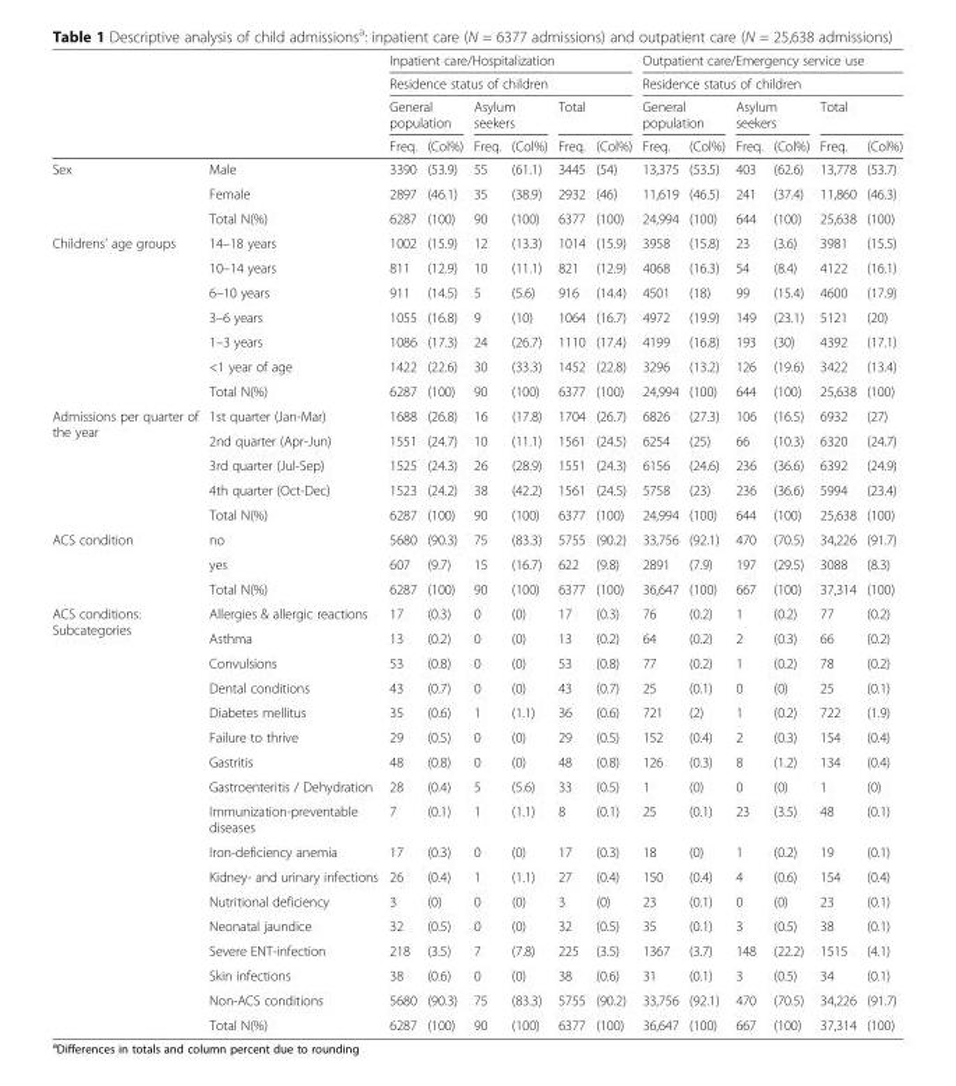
<table><thead><tr><td rowspan="4"></td><td rowspan="4"></td><td rowspan="2" colspan="6">Inpatient care/Hospitalization Residence status of children</td><td rowspan="2" colspan="6">Outpatient care/Emergency service use Residence status of children</td></tr><tr></tr><tr><td colspan="2">General population</td><td colspan="2">Asylum seekers</td><td colspan="2">Total</td><td colspan="2">General population</td><td colspan="2">Asylum seekers</td><td colspan="2">Total</td></tr><tr><td>Freq.</td><td>(Col%)</td><td>Freq.</td><td>(Col%)</td><td>Freq.</td><td>(Col%)</td><td>Freq.</td><td>(Col%)</td><td>Freq.</td><td>(Col%)</td><td>Freq.</td><td>(Col%)</td></tr></thead><tbody><tr><td rowspan="3">Sex</td><td>Male</td><td>3390</td><td>(53.9)</td><td>55</td><td>(61.1)</td><td>3445</td><td>(54)</td><td>13,375</td><td>(53.5)</td><td>403</td><td>(62.6)</td><td>13,778</td><td>(53.7)</td></tr><tr><td>Female</td><td>2897</td><td>(46.1)</td><td>35</td><td>(38.9)</td><td>2932</td><td>(46)</td><td>11,619</td><td>(46.5)</td><td>241</td><td>(37.4)</td><td>11,860</td><td>(46.3)</td></tr><tr><td>Total N(%)</td><td>6287</td><td>(100)</td><td>90</td><td>(100)</td><td>6377</td><td>(100)</td><td>24,994</td><td>(100)</td><td>644</td><td>(100)</td><td>25,638</td><td>(100)</td></tr><tr><td rowspan="7">Childrens’ age groups</td><td>14–18 years</td><td>1002</td><td>(15.9)</td><td>12</td><td>(13.3)</td><td>1014</td><td>(15.9)</td><td>3958</td><td>(15.8)</td><td>23</td><td>(3.6)</td><td>3981</td><td>(15.5)</td></tr><tr><td>10–14 years</td><td>811</td><td>(12.9)</td><td>10</td><td>(11.1)</td><td>821</td><td>(12.9)</td><td>4068</td><td>(16.3)</td><td>54</td><td>(8.4)</td><td>4122</td><td>(16.1)</td></tr><tr><td>6–10 years</td><td>911</td><td>(14.5)</td><td>5</td><td>(5.6)</td><td>916</td><td>(14.4)</td><td>4501</td><td>(18)</td><td>99</td><td>(15.4)</td><td>4600</td><td>(17.9)</td></tr><tr><td>3–6 years</td><td>1055</td><td>(16.8)</td><td>9</td><td>(10)</td><td>1064</td><td>(16.7)</td><td>4972</td><td>(19.9)</td><td>149</td><td>(23.1)</td><td>5121</td><td>(20)</td></tr><tr><td>1–3 years</td><td>1086</td><td>(17.3)</td><td>24</td><td>(26.7)</td><td>1110</td><td>(17.4)</td><td>4199</td><td>(16.8)</td><td>193</td><td>(30)</td><td>4392</td><td>(17.1)</td></tr><tr><td>&lt;1 year of age</td><td>1422</td><td>(22.6)</td><td>30</td><td>(33.3)</td><td>1452</td><td>(22.8)</td><td>3296</td><td>(13.2)</td><td>126</td><td>(19.6)</td><td>3422</td><td>(13.4)</td></tr><tr><td>Total N(%)</td><td>6287</td><td>(100)</td><td>90</td><td>(100)</td><td>6377</td><td>(100)</td><td>24,994</td><td>(100)</td><td>644</td><td>(100)</td><td>25,638</td><td>(100)</td></tr><tr><td rowspan="5">Admissions per quarter of the year</td><td>1st quarter (Jan-Mar)</td><td>1688</td><td>(26.8)</td><td>16</td><td>(17.8)</td><td>1704</td><td>(26.7)</td><td>6826</td><td>(27.3)</td><td>106</td><td>(16.5)</td><td>6932</td><td>(27)</td></tr><tr><td>2nd quarter (Apr-Jun)</td><td>1551</td><td>(24.7)</td><td>10</td><td>(11.1)</td><td>1561</td><td>(24.5)</td><td>6254</td><td>(25)</td><td>66</td><td>(10.3)</td><td>6320</td><td>(24.7)</td></tr><tr><td>3rd quarter (Jul-Sep)</td><td>1525</td><td>(24.3)</td><td>26</td><td>(28.9)</td><td>1551</td><td>(24.3)</td><td>6156</td><td>(24.6)</td><td>236</td><td>(36.6)</td><td>6392</td><td>(24.9)</td></tr><tr><td>4th quarter (Oct-Dec)</td><td>1523</td><td>(24.2)</td><td>38</td><td>(42.2)</td><td>1561</td><td>(24.5)</td><td>5758</td><td>(23)</td><td>236</td><td>(36.6)</td><td>5994</td><td>(23.4)</td></tr><tr><td>Total N(%)</td><td>6287</td><td>(100)</td><td>90</td><td>(100)</td><td>6377</td><td>(100)</td><td>24,994</td><td>(100)</td><td>644</td><td>(100)</td><td>25,638</td><td>(100)</td></tr><tr><td rowspan="3">ACS condition</td><td>no</td><td>5680</td><td>(90.3)</td><td>75</td><td>(83.3)</td><td>5755</td><td>(90.2)</td><td>33,756</td><td>(92.1)</td><td>470</td><td>(70.5)</td><td>34,226</td><td>(91.7)</td></tr><tr><td>yes</td><td>607</td><td>(9.7)</td><td>15</td><td>(16.7)</td><td>622</td><td>(9.8)</td><td>2891</td><td>(7.9)</td><td>197</td><td>(29.5)</td><td>3088</td><td>(8.3)</td></tr><tr><td>Total N(%)</td><td>6287</td><td>(100)</td><td>90</td><td>(100)</td><td>6377</td><td>(100)</td><td>36,647</td><td>(100)</td><td>667</td><td>(100)</td><td>37,314</td><td>(100)</td></tr><tr><td rowspan="17">ACS conditions: Subcategories</td><td>Allergies &amp; allergic reactions</td><td>17</td><td>(0.3)</td><td>0</td><td>(0)</td><td>17</td><td>(0.3)</td><td>76</td><td>(0.2)</td><td>1</td><td>(0.2)</td><td>77</td><td>(0.2)</td></tr><tr><td>Asthma</td><td>13</td><td>(0.2)</td><td>0</td><td>(0)</td><td>13</td><td>(0.2)</td><td>64</td><td>(0.2)</td><td>2</td><td>(0.3)</td><td>66</td><td>(0.2)</td></tr><tr><td>Convulsions</td><td>53</td><td>(0.8)</td><td>0</td><td>(0)</td><td>53</td><td>(0.8)</td><td>77</td><td>(0.2)</td><td>1</td><td>(0.2)</td><td>78</td><td>(0.2)</td></tr><tr><td>Dental conditions</td><td>43</td><td>(0.7)</td><td>0</td><td>(0)</td><td>43</td><td>(0.7)</td><td>25</td><td>(0.1)</td><td>0</td><td>(0)</td><td>25</td><td>(0.1)</td></tr><tr><td>Diabetes mellitus</td><td>35</td><td>(0.6)</td><td>1</td><td>(1.1)</td><td>36</td><td>(0.6)</td><td>721</td><td>(2)</td><td>1</td><td>(0.2)</td><td>722</td><td>(1.9)</td></tr><tr><td>Failure to thrive</td><td>29</td><td>(0.5)</td><td>0</td><td>(0)</td><td>29</td><td>(0.5)</td><td>152</td><td>(0.4)</td><td>2</td><td>(0.3)</td><td>154</td><td>(0.4)</td></tr><tr><td>Gastritis</td><td>48</td><td>(0.8)</td><td>0</td><td>(0)</td><td>48</td><td>(0.8)</td><td>126</td><td>(0.3)</td><td>8</td><td>(1.2)</td><td>134</td><td>(0.4)</td></tr><tr><td>Gastroenteritis / Dehydration</td><td>28</td><td>(0.4)</td><td>5</td><td>(5.6)</td><td>33</td><td>(0.5)</td><td>1</td><td>(0)</td><td>0</td><td>(0)</td><td>1</td><td>(0)</td></tr><tr><td>Immunization-preventable diseases</td><td>7</td><td>(0.1)</td><td>1</td><td>(1.1)</td><td>8</td><td>(0.1)</td><td>25</td><td>(0.1)</td><td>23</td><td>(3.5)</td><td>48</td><td>(0.1)</td></tr><tr><td>Iron-deficiency anemia</td><td>17</td><td>(0.3)</td><td>0</td><td>(0)</td><td>17</td><td>(0.3)</td><td>18</td><td>(0)</td><td>1</td><td>(0.2)</td><td>19</td><td>(0.1)</td></tr><tr><td>Kidney- and urinary infections</td><td>26</td><td>(0.4)</td><td>1</td><td>(1.1)</td><td>27</td><td>(0.4)</td><td>150</td><td>(0.4)</td><td>4</td><td>(0.6)</td><td>154</td><td>(0.4)</td></tr><tr><td>Nutritional deficiency</td><td>3</td><td>(0)</td><td>0</td><td>(0)</td><td>3</td><td>(0)</td><td>23</td><td>(0.1)</td><td>0</td><td>(0)</td><td>23</td><td>(0.1)</td></tr><tr><td>Neonatal jaundice</td><td>32</td><td>(0.5)</td><td>0</td><td>(0)</td><td>32</td><td>(0.5)</td><td>35</td><td>(0.1)</td><td>3</td><td>(0.5)</td><td>38</td><td>(0.1)</td></tr><tr><td>Severe ENT-infection</td><td>218</td><td>(3.5)</td><td>7</td><td>(7.8)</td><td>225</td><td>(3.5)</td><td>1367</td><td>(3.7)</td><td>148</td><td>(22.2)</td><td>1515</td><td>(4.1)</td></tr><tr><td>Skin infections</td><td>38</td><td>(0.6)</td><td>0</td><td>(0)</td><td>38</td><td>(0.6)</td><td>31</td><td>(0.1)</td><td>3</td><td>(0.5)</td><td>34</td><td>(0.1)</td></tr><tr><td>Non-ACS conditions</td><td>5680</td><td>(90.3)</td><td>75</td><td>(83.3)</td><td>5755</td><td>(90.2)</td><td>33,756</td><td>(92.1)</td><td>470</td><td>(70.5)</td><td>34,226</td><td>(91.7)</td></tr><tr><td>Total N(%)</td><td>6287</td><td>(100)</td><td>90</td><td>(100)</td><td>6377</td><td>(100)</td><td>36,647</td><td>(100)</td><td>667</td><td>(100)</td><td>37,314</td><td>(100)</td></tr></tbody></table>